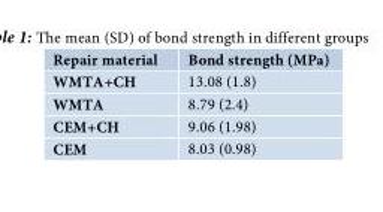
<table><thead><tr><td>Repair material</td><td>Bond strength (MPa)</td></tr></thead><tbody><tr><td>WMTA+CH</td><td>13.08 (1.8)</td></tr><tr><td>WMTA</td><td>8.79 (2.4)</td></tr><tr><td>CEM+CH</td><td>9.06 (1.98)</td></tr><tr><td>CEM</td><td>8.03 (0.98)</td></tr></tbody></table>